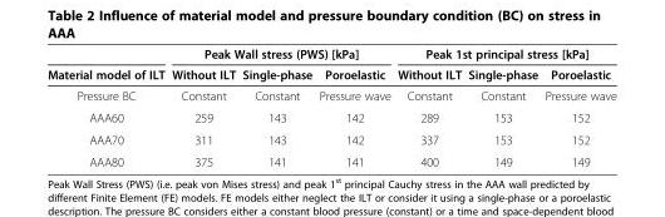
<table><thead><tr><td rowspan="2">Material model of ILT</td><td colspan="3">Peak Wall stress (PWS) [kPa]</td><td colspan="3">Peak 1st principal stress [kPa]</td></tr><tr><td>Without ILT</td><td>Single-phase</td><td>Poroelastic</td><td>Without ILT</td><td>Single-phase</td><td>Poroelastic</td></tr></thead><tbody><tr><td>Pressure BC</td><td>Constant</td><td>Constant</td><td>Pressure wave</td><td>Constant</td><td>Constant</td><td>Pressure wave</td></tr><tr><td>AAA60</td><td>259</td><td>143</td><td>142</td><td>289</td><td>153</td><td>152</td></tr><tr><td>AAA70</td><td>311</td><td>143</td><td>142</td><td>337</td><td>153</td><td>152</td></tr><tr><td>AAA80</td><td>375</td><td>141</td><td>141</td><td>400</td><td>149</td><td>149</td></tr></tbody></table>